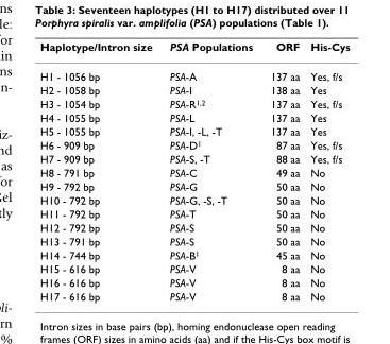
<table><thead><tr><td>Haplotype/Intron size</td><td>PSA Populations</td><td>ORF</td><td>His-Cys</td></tr></thead><tbody><tr><td>H1 - 1056 bp</td><td>PSA-A</td><td>137 aa</td><td>Yes, f/s</td></tr><tr><td>H2 - 1058 bp</td><td>PSA-I</td><td>138 aa</td><td>Yes</td></tr><tr><td>H3 - 1054 bp</td><td>PSA-R<sup>1,2</sup></td><td>137 aa</td><td>Yes, f/s</td></tr><tr><td>H4 - 1055 bp</td><td>PSA-L</td><td>137 aa</td><td>Yes</td></tr><tr><td>H5 - 1055 bp</td><td>PSA-I, -L, -T</td><td>137 aa</td><td>Yes</td></tr><tr><td>H6 - 909 bp</td><td>PSA-D<sup>1</sup></td><td>87 aa</td><td>Yes, f/s</td></tr><tr><td>H7 - 909 bp</td><td>PSA-S, -T</td><td>88 aa</td><td>Yes, f/s</td></tr><tr><td>H8 - 791 bp</td><td>PSA-C</td><td>49 aa</td><td>No</td></tr><tr><td>H9 - 792 bp</td><td>PSA-G</td><td>50 aa</td><td>No</td></tr><tr><td>H10 - 792 bp</td><td>PSA-G, -S, -T</td><td>50 aa</td><td>No</td></tr><tr><td>H11 - 792 bp</td><td>PSA-T</td><td>50 aa</td><td>No</td></tr><tr><td>H12 - 792 bp</td><td>PSA-S</td><td>50 aa</td><td>No</td></tr><tr><td>H13 - 791 bp</td><td>PSA-S</td><td>50 aa</td><td>No</td></tr><tr><td>H14 - 744 bp</td><td>PSA-B<sup>1</sup></td><td>45 aa</td><td>No</td></tr><tr><td>H15 - 616 bp</td><td>PSA-V</td><td>8 aa</td><td>No</td></tr><tr><td>H16 - 616 bp</td><td>PSA-V</td><td>8 aa</td><td>No</td></tr><tr><td>H17 - 616 bp</td><td>PSA-V</td><td>8 aa</td><td>No</td></tr></tbody></table>